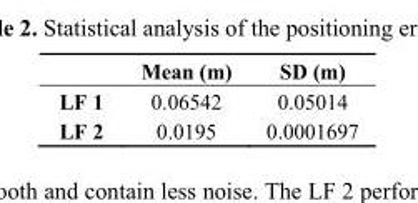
<table><thead><tr><td></td><td>Mean (m)</td><td>SD (m)</td></tr></thead><tbody><tr><td>LF 1</td><td>0.06542</td><td>0.05014</td></tr><tr><td>LF 2</td><td>0.0195</td><td>0.0001697</td></tr></tbody></table>